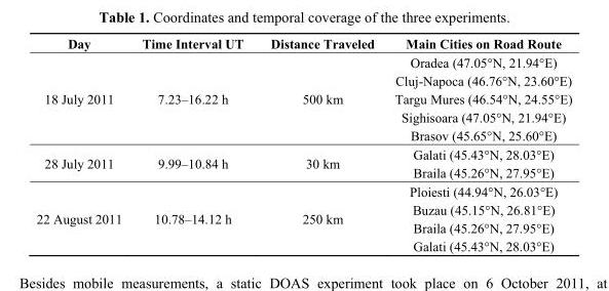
<table><thead><tr><td>Day</td><td>Time Interval UT</td><td>Distance Traveled</td><td>Main Cities on Road Route</td></tr></thead><tbody><tr><td rowspan="5">18 July 2011</td><td rowspan="5">7.23–16.22 h</td><td rowspan="5">500 km</td><td>Oradea (47.05°N, 21.94°E)</td></tr><tr><td>Cluj-Napoca (46.76°N, 23.60°E)</td></tr><tr><td>Targu Mures (46.54°N, 24.55°E)</td></tr><tr><td>Sighisoara (47.05°N, 21.94°E)</td></tr><tr><td>Brasov (45.65°N, 25.60°E)</td></tr><tr><td rowspan="2">28 July 2011</td><td rowspan="2">9.99–10.84 h</td><td rowspan="2">30 km</td><td>Galati (45.43°N, 28.03°E)</td></tr><tr><td>Braila (45.26°N, 27.95°E)</td></tr><tr><td rowspan="4">22 August 2011</td><td rowspan="4">10.78–14.12 h</td><td rowspan="4">250 km</td><td>Ploiesti (44.94°N, 26.03°E)</td></tr><tr><td>Buzau (45.15°N, 26.81°E)</td></tr><tr><td>Braila (45.26°N, 27.95°E)</td></tr><tr><td>Galati (45.43°N, 28.03°E)</td></tr></tbody></table>